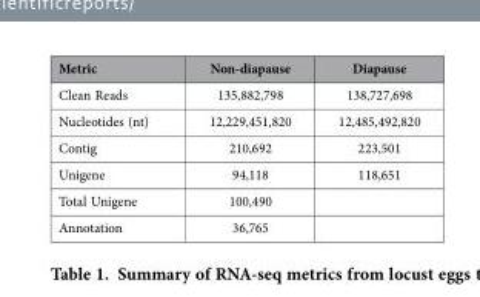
<table><thead><tr><td>Metric</td><td>Non-diapause</td><td>Diapause</td></tr></thead><tbody><tr><td>Clean Reads</td><td>135,882,798</td><td>138,727,698</td></tr><tr><td>Nucleotides (nt)</td><td>12,229,451,820</td><td>12,485,492,820</td></tr><tr><td>Contig</td><td>210,692</td><td>223,501</td></tr><tr><td>Unigene</td><td>94,118</td><td>118,651</td></tr><tr><td>Total Unigene</td><td>100,490</td><td></td></tr><tr><td>Annotation</td><td>36,765</td><td></td></tr></tbody></table>